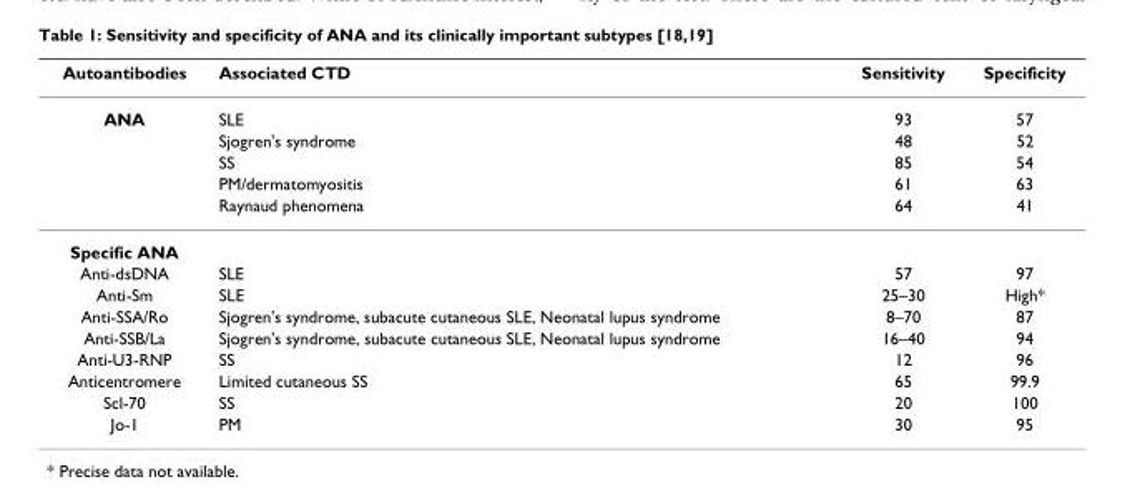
<table><thead><tr><td>Autoantibodies</td><td>Associated CTD</td><td>Sensitivity</td><td>Specificity</td></tr></thead><tbody><tr><td rowspan="5">ANA</td><td>SLE</td><td>93</td><td>57</td></tr><tr><td>Sjogren&#x27;s syndrome</td><td>48</td><td>52</td></tr><tr><td>SS</td><td>85</td><td>54</td></tr><tr><td>PM/dermatomyositis</td><td>61</td><td>63</td></tr><tr><td>Raynaud phenomena</td><td>64</td><td>41</td></tr><tr><td colspan="4">Specific ANA</td></tr><tr><td>Anti-dsDNA</td><td>SLE</td><td>57</td><td>97</td></tr><tr><td>Anti-Sm</td><td>SLE</td><td>25–30</td><td>High*</td></tr><tr><td>Anti-SSA/Ro</td><td>Sjogren&#x27;s syndrome, subacute cutaneous SLE, Neonatal lupus syndrome</td><td>8–70</td><td>87</td></tr><tr><td>Anti-SSB/La</td><td>Sjogren&#x27;s syndrome, subacute cutaneous SLE, Neonatal lupus syndrome</td><td>16–40</td><td>94</td></tr><tr><td>Anti-U3-RNP</td><td>SS</td><td>12</td><td>96</td></tr><tr><td>Anticentromere</td><td>Limited cutaneous SS</td><td>65</td><td>99.9</td></tr><tr><td>Scl-70</td><td>SS</td><td>20</td><td>100</td></tr><tr><td>Jo-1</td><td>PM</td><td>30</td><td>95</td></tr></tbody></table>